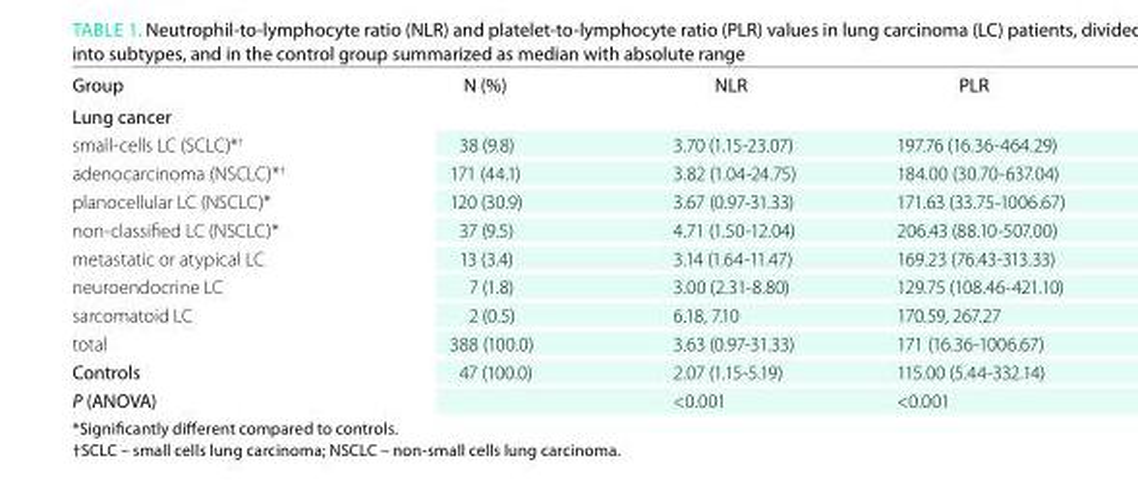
<table><thead><tr><td>Group</td><td>N (%)</td><td>NLR</td><td>PLR</td></tr></thead><tbody><tr><td colspan="4">Lung cancer</td></tr><tr><td>small-cells LC (SCLC)*<sup>†</sup></td><td>38 (9.8)</td><td>3.70 (1.15-23.07)</td><td>197.76 (16.36-464.29)</td></tr><tr><td>adenocarcinoma (NSCLC)*<sup>†</sup></td><td>171 (44.1)</td><td>3.82 (1.04-24.75)</td><td>184.00 (30.70-637.04)</td></tr><tr><td>planocellular LC (NSCLC)*</td><td>120 (30.9)</td><td>3.67 (0.97-31.33)</td><td>171.63 (33.75-1006.67)</td></tr><tr><td>non-classified LC (NSCLC)*</td><td>37 (9.5)</td><td>4.71 (1.50-12.04)</td><td>206.43 (88.10-507.00)</td></tr><tr><td>metastatic or atypical LC</td><td>13 (3.4)</td><td>3.14 (1.64-11.47)</td><td>169.23 (76.43-313.33)</td></tr><tr><td>neuroendocrine LC</td><td>7 (1.8)</td><td>3.00 (2.31-8.80)</td><td>129.75 (108.46-421.10)</td></tr><tr><td>sarcomatoid LC</td><td>2 (0.5)</td><td>6.18, 7.10</td><td>170.59, 267.27</td></tr><tr><td>total</td><td>388 (100.0)</td><td>3.63 (0.97-31.33)</td><td>171 (16.36-1006.67)</td></tr><tr><td>Controls</td><td>47 (100.0)</td><td>2.07 (1.15-5.19)</td><td>115.00 (5.44-332.14)</td></tr><tr><td>P (aNOVa)</td><td></td><td>&lt;0.001</td><td>&lt;0.001</td></tr></tbody></table>